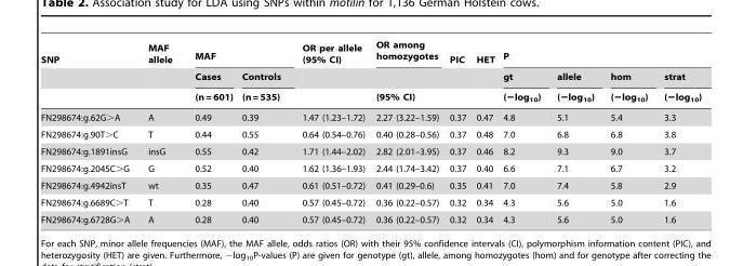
<table><thead><tr><td rowspan="3">SNP</td><td rowspan="3">MAF allele</td><td colspan="2">MAF</td><td rowspan="3">OR per allele (95% CI)</td><td rowspan="3">OR among homozygotes (95% CI)</td><td rowspan="3">PIC</td><td rowspan="3">HET</td><td colspan="4">P</td></tr><tr><td rowspan="2">Cases (n = 601)</td><td rowspan="2">Controls (n = 535)</td><td rowspan="2">gt (−log<sub>10</sub>)</td><td rowspan="2">allele (−log<sub>10</sub>)</td><td rowspan="2">hom (−log<sub>10</sub>)</td><td rowspan="2">strat (−log<sub>10</sub>)</td></tr><tr></tr></thead><tbody><tr><td>FN298674:g.62G&gt;A</td><td>A</td><td>0.49</td><td>0.39</td><td>1.47 (1.23–1.72)</td><td>2.27 (3.22–1.59)</td><td>0.37</td><td>0.47</td><td>4.8</td><td>5.1</td><td>5.4</td><td>3.3</td></tr><tr><td>FN298674:g.90T&gt;C</td><td>T</td><td>0.44</td><td>0.55</td><td>0.64 (0.54–0.76)</td><td>0.40 (0.28–0.56)</td><td>0.37</td><td>0.48</td><td>7.0</td><td>6.8</td><td>6.8</td><td>3.8</td></tr><tr><td>FN298674:g.1891insG</td><td>insG</td><td>0.55</td><td>0.42</td><td>1.71 (1.44–2.02)</td><td>2.82 (2.01–3.95)</td><td>0.37</td><td>0.46</td><td>8.2</td><td>9.3</td><td>9.0</td><td>3.7</td></tr><tr><td>FN298674:g.2045C&gt;G</td><td>G</td><td>0.52</td><td>0.40</td><td>1.62 (1.36–1.93)</td><td>2.44 (1.74–3.42)</td><td>0.37</td><td>0.40</td><td>6.6</td><td>7.1</td><td>6.7</td><td>3.2</td></tr><tr><td>FN298674:g.4942insT</td><td>wt</td><td>0.35</td><td>0.47</td><td>0.61 (0.51–0.72)</td><td>0.41 (0.29–0.6)</td><td>0.35</td><td>0.41</td><td>7.0</td><td>7.4</td><td>5.8</td><td>2.9</td></tr><tr><td>FN298674:g.6689C&gt;T</td><td>T</td><td>0.28</td><td>0.40</td><td>0.57 (0.45–0.72)</td><td>0.36 (0.22–0.57)</td><td>0.32</td><td>0.34</td><td>4.3</td><td>5.6</td><td>5.0</td><td>1.6</td></tr><tr><td>FN298674:g.6728G&gt;A</td><td>A</td><td>0.28</td><td>0.40</td><td>0.57 (0.45–0.72)</td><td>0.36 (0.22–0.57)</td><td>0.32</td><td>0.34</td><td>4.3</td><td>5.6</td><td>5.0</td><td>1.6</td></tr></tbody></table>